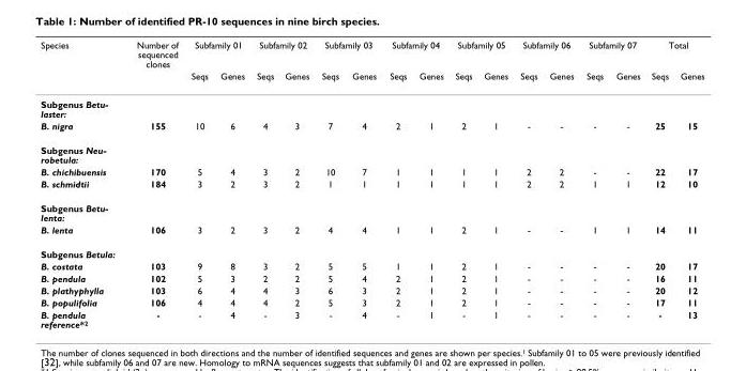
<table><thead><tr><td rowspan="2">Species</td><td rowspan="2">Number of sequenced clones</td><td colspan="2">Subfamily 01</td><td colspan="2">Subfamily 02</td><td colspan="2">Subfamily 03</td><td colspan="2">Subfamily 04</td><td colspan="2">Subfamily 05</td><td colspan="2">Subfamily 06</td><td colspan="2">Subfamily 07</td><td colspan="2">Total</td></tr><tr><td>Seqs</td><td>Genes</td><td>Seqs</td><td>Genes</td><td>Seqs</td><td>Genes</td><td>Seqs</td><td>Genes</td><td>Seqs</td><td>Genes</td><td>Seqs</td><td>Genes</td><td>Seqs</td><td>Genes</td><td>Seqs</td><td>Genes</td></tr></thead><tbody><tr><td colspan="18">Subgenus Betu- laster:</td></tr><tr><td>B. nigra</td><td>155</td><td>10</td><td>6</td><td>4</td><td>3</td><td>7</td><td>4</td><td>2</td><td>1</td><td>2</td><td>1</td><td>-</td><td>-</td><td>-</td><td>-</td><td>25</td><td>15</td></tr><tr><td colspan="18">Subgenus Neu- robetula:</td></tr><tr><td>B. chichibuensis</td><td>170</td><td>5</td><td>4</td><td>3</td><td>2</td><td>10</td><td>7</td><td>1</td><td>1</td><td>1</td><td>1</td><td>2</td><td>2</td><td>-</td><td>-</td><td>22</td><td>17</td></tr><tr><td>B. schmidtii</td><td>184</td><td>3</td><td>2</td><td>3</td><td>2</td><td>1</td><td>1</td><td>1</td><td>1</td><td>1</td><td>1</td><td>2</td><td>2</td><td>1</td><td>1</td><td>12</td><td>10</td></tr><tr><td colspan="18">Subgenus Betu- lenta:</td></tr><tr><td>B. lenta</td><td>106</td><td>3</td><td>2</td><td>3</td><td>2</td><td>4</td><td>4</td><td>1</td><td>1</td><td>2</td><td>1</td><td>-</td><td>-</td><td>1</td><td>1</td><td>14</td><td>11</td></tr><tr><td colspan="18">Subgenus Betula:</td></tr><tr><td>B. costata</td><td>103</td><td>9</td><td>8</td><td>3</td><td>2</td><td>5</td><td>5</td><td>1</td><td>1</td><td>2</td><td>1</td><td>-</td><td>-</td><td>-</td><td>-</td><td>20</td><td>17</td></tr><tr><td>B. pendula</td><td>102</td><td>5</td><td>3</td><td>2</td><td>2</td><td>5</td><td>4</td><td>2</td><td>1</td><td>2</td><td>1</td><td>-</td><td>-</td><td>-</td><td>-</td><td>16</td><td>11</td></tr><tr><td>B. plathyphylla</td><td>103</td><td>6</td><td>4</td><td>4</td><td>3</td><td>6</td><td>3</td><td>2</td><td>1</td><td>2</td><td>1</td><td>-</td><td>-</td><td>-</td><td>-</td><td>20</td><td>12</td></tr><tr><td>B. populifolia</td><td>106</td><td>4</td><td>4</td><td>4</td><td>2</td><td>5</td><td>3</td><td>2</td><td>1</td><td>2</td><td>1</td><td>-</td><td>-</td><td>-</td><td>-</td><td>17</td><td>11</td></tr><tr><td>B. pendula reference*<sup>2</sup></td><td>-</td><td>-</td><td>4</td><td>-</td><td>3</td><td>-</td><td>4</td><td>-</td><td>1</td><td>-</td><td>1</td><td>-</td><td>-</td><td>-</td><td>-</td><td>-</td><td>13</td></tr></tbody></table>